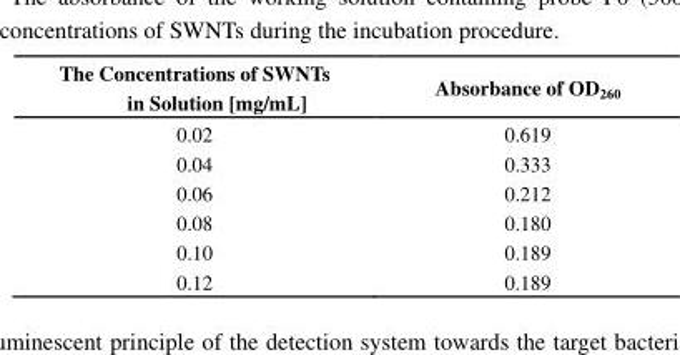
<table><thead><tr><td>The Concentrations of SWNTs in Solution [mg/mL]</td><td>Absorbance of OD<sub>260</sub></td></tr></thead><tbody><tr><td>0.02</td><td>0.619</td></tr><tr><td>0.04</td><td>0.333</td></tr><tr><td>0.06</td><td>0.212</td></tr><tr><td>0.08</td><td>0.180</td></tr><tr><td>0.10</td><td>0.189</td></tr><tr><td>0.12</td><td>0.189</td></tr></tbody></table>